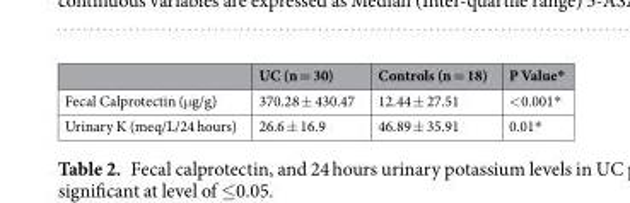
<table><thead><tr><td></td><td>UC (n = 30)</td><td>Controls (n = 18)</td><td>P Value*</td></tr></thead><tbody><tr><td>Fecal Calprotectin (μg/g)</td><td>370.28 ± 430.47</td><td>12.44 ± 27.51</td><td>&lt;0.001*</td></tr><tr><td>Urinary K (meq/L/24 hours)</td><td>26.6 ± 16.9</td><td>46.89 ± 35.91</td><td>0.01*</td></tr></tbody></table>